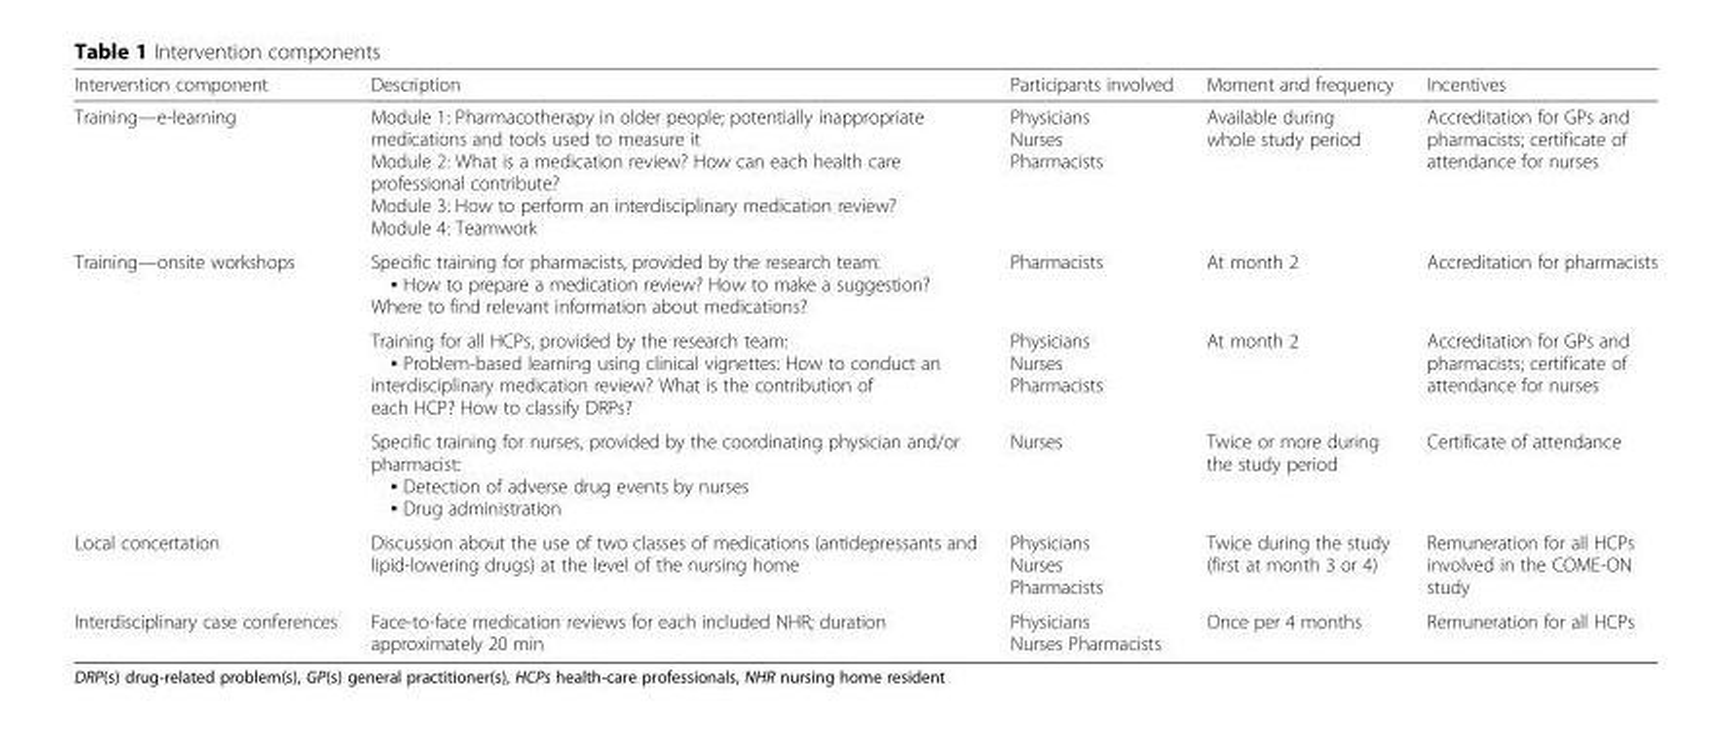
<table><thead><tr><td>Intervention component</td><td>Description</td><td>Participants involved</td><td>Moment and frequency</td><td>Incentives</td></tr></thead><tbody><tr><td>Training—e-learning</td><td>Module 1: Pharmacotherapy in older people; potentially inappropriate medications and tools used to measure it Module 2: What is a medication review? How can each health care professional contribute? Module 3: How to perform an interdisciplinary medication review? Module 4: Teamwork</td><td>Physicians Nurses Pharmacists</td><td>Available during whole study period</td><td>Accreditation for GPs and pharmacists; certificate of attendance for nurses</td></tr><tr><td rowspan="3">Training—onsite workshops</td><td>Specific training for pharmacists, provided by the research team: ▪ How to prepare a medication review? How to make a suggestion? Where to find relevant information about medications?</td><td>Pharmacists</td><td>At month 2</td><td>Accreditation for pharmacists</td></tr><tr><td>Training for all HCPs, provided by the research team: ▪ Problem-based learning using clinical vignettes: How to conduct an interdisciplinary medication review? What is the contribution of each HCP? How to classify DRPs?</td><td>Physicians Nurses Pharmacists</td><td>At month 2</td><td>Accreditation for GPs and pharmacists; certificate of attendance for nurses</td></tr><tr><td>Specific training for nurses, provided by the coordinating physician and/or pharmacist: ▪ Detection of adverse drug events by nurses ▪ Drug administration</td><td>Nurses</td><td>Twice or more during the study period</td><td>Certificate of attendance</td></tr><tr><td>Local concertation</td><td>Discussion about the use of two classes of medications (antidepressants and lipid-lowering drugs) at the level of the nursing home</td><td>Physicians Nurses Pharmacists</td><td>Twice during the study (first at month 3 or 4)</td><td>Remuneration for all HCPs involved in the COME-ON study</td></tr><tr><td>Interdisciplinary case conferences</td><td>Face-to-face medication reviews for each included NHR; duration approximately 20 min</td><td>Physicians Nurses Pharmacists</td><td>Once per 4 months</td><td>Remuneration for all HCPs</td></tr></tbody></table>